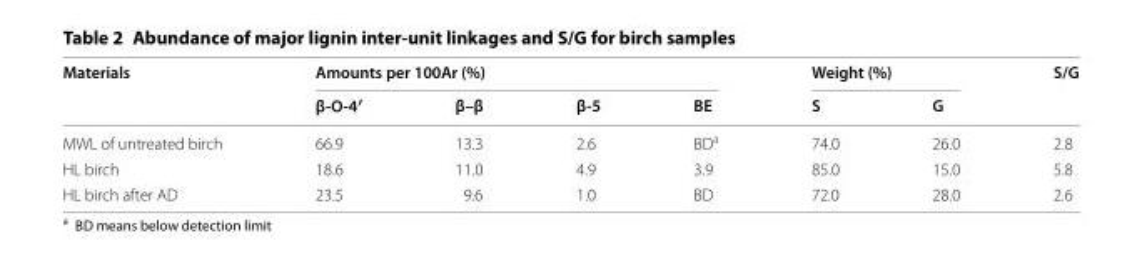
<table><thead><tr><td rowspan="2">Materials</td><td colspan="4">Amounts per 100Ar (%)</td><td colspan="2">Weight (%)</td><td rowspan="2">S/G</td></tr><tr><td>β‑O‑4′</td><td>β–β</td><td>β‑5</td><td>BE</td><td>S</td><td>G</td></tr></thead><tbody><tr><td>MWL of untreated birch</td><td>66.9</td><td>13.3</td><td>2.6</td><td>BD<sup>a</sup></td><td>74.0</td><td>26.0</td><td>2.8</td></tr><tr><td>HL birch</td><td>18.6</td><td>11.0</td><td>4.9</td><td>3.9</td><td>85.0</td><td>15.0</td><td>5.8</td></tr><tr><td>HL birch after AD</td><td>23.5</td><td>9.6</td><td>1.0</td><td>BD</td><td>72.0</td><td>28.0</td><td>2.6</td></tr></tbody></table>